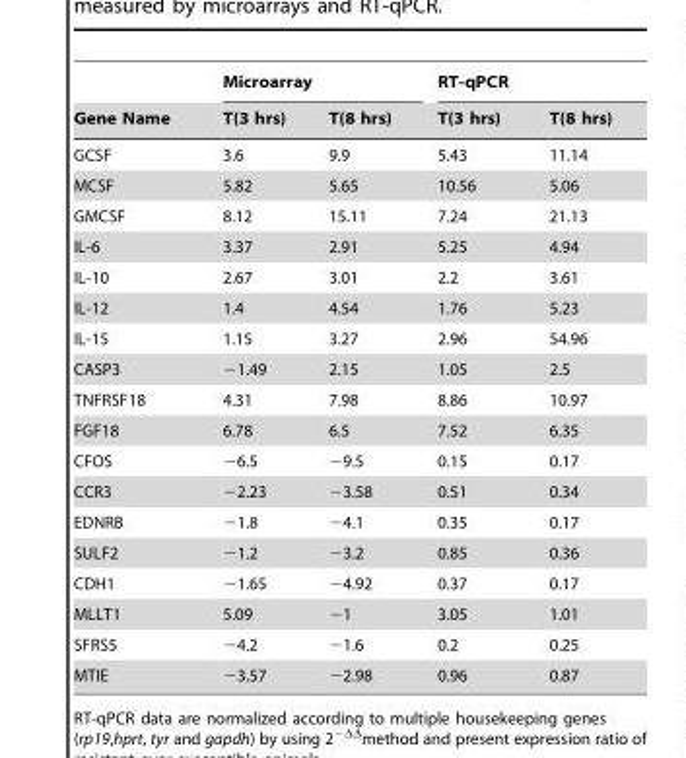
<table><thead><tr><td rowspan="2">Gene Name</td><td colspan="2">Microarray</td><td colspan="2">RT-qPCR</td></tr><tr><td>T(3 hrs)</td><td>T(8 hrs)</td><td>T(3 hrs)</td><td>T(8 hrs)</td></tr></thead><tbody><tr><td>GCSF</td><td>3.6</td><td>9.9</td><td>5.43</td><td>11.14</td></tr><tr><td>MCSF</td><td>5.82</td><td>5.65</td><td>10.56</td><td>5.06</td></tr><tr><td>GMCSF</td><td>8.12</td><td>15.11</td><td>7.24</td><td>21.13</td></tr><tr><td>IL-6</td><td>3.37</td><td>2.91</td><td>5.25</td><td>4.94</td></tr><tr><td>IL-10</td><td>2.67</td><td>3.01</td><td>2.2</td><td>3.61</td></tr><tr><td>IL-12</td><td>1.4</td><td>4.54</td><td>1.76</td><td>5.23</td></tr><tr><td>IL-15</td><td>1.15</td><td>3.27</td><td>2.96</td><td>54.96</td></tr><tr><td>CASP3</td><td>−1.49</td><td>2.15</td><td>1.05</td><td>2.5</td></tr><tr><td>TNFRSF18</td><td>4.31</td><td>7.98</td><td>8.86</td><td>10.97</td></tr><tr><td>FGF18</td><td>6.78</td><td>6.5</td><td>7.52</td><td>6.35</td></tr><tr><td>CFOS</td><td>−6.5</td><td>−9.5</td><td>0.15</td><td>0.17</td></tr><tr><td>CCR3</td><td>−2.23</td><td>−3.58</td><td>0.51</td><td>0.34</td></tr><tr><td>EDNRB</td><td>−1.8</td><td>−4.1</td><td>0.35</td><td>0.17</td></tr><tr><td>SULF2</td><td>−1.2</td><td>−3.2</td><td>0.85</td><td>0.36</td></tr><tr><td>CDH1</td><td>−1.65</td><td>−4.92</td><td>0.37</td><td>0.17</td></tr><tr><td>MLLT1</td><td>5.09</td><td>−1</td><td>3.05</td><td>1.01</td></tr><tr><td>SFRS5</td><td>−4.2</td><td>−1.6</td><td>0.2</td><td>0.25</td></tr><tr><td>MTIE</td><td>−3.57</td><td>−2.98</td><td>0.96</td><td>0.87</td></tr></tbody></table>